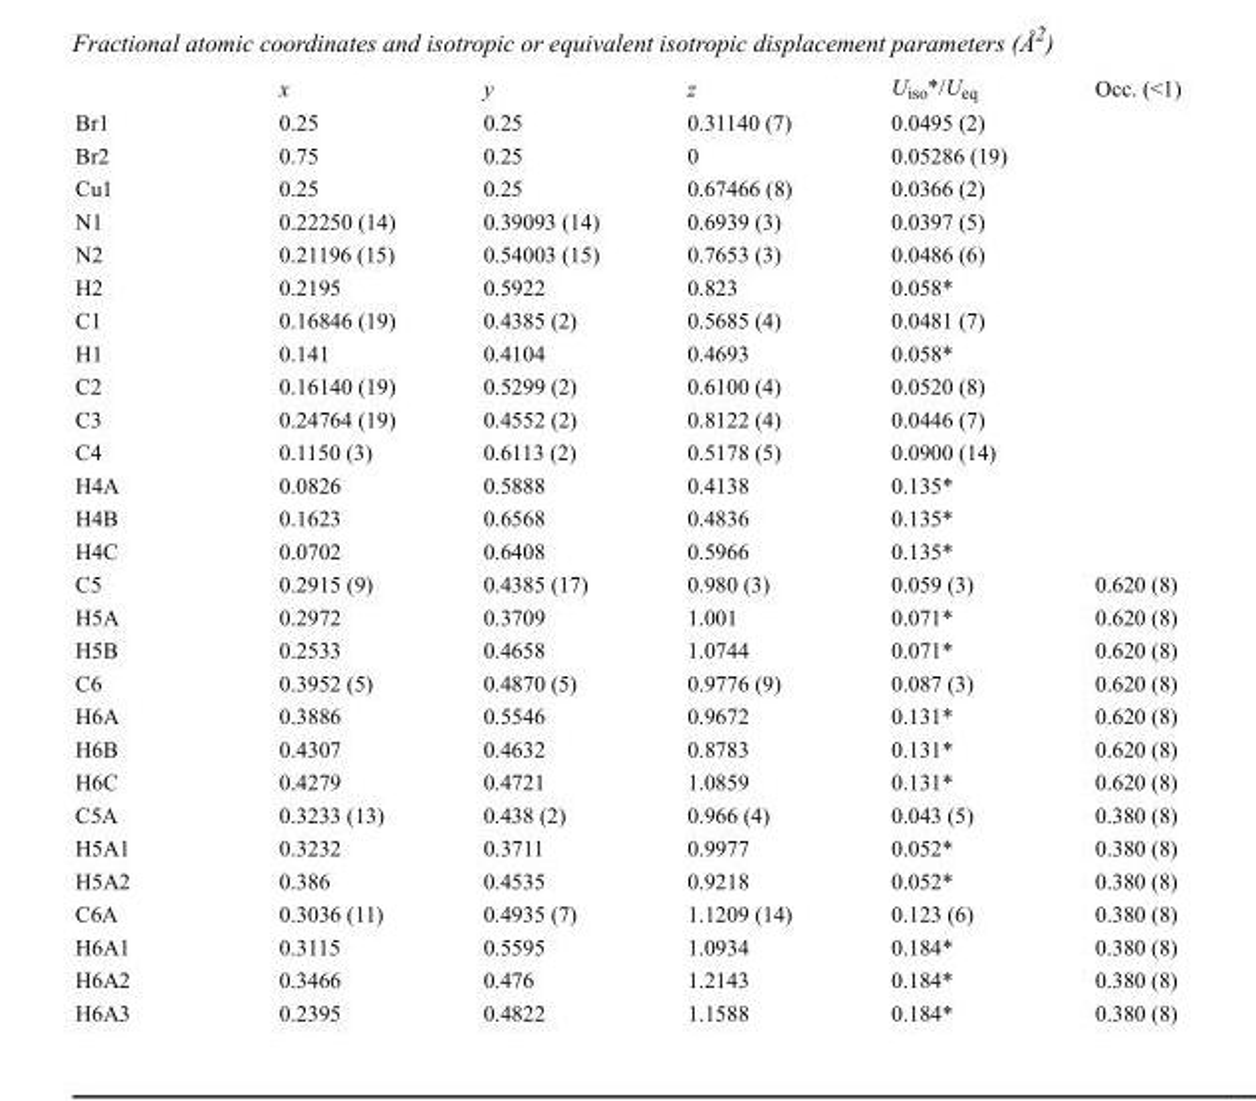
<table><thead><tr><td></td><td>x</td><td>y</td><td>z</td><td>U<sub>iso</sub>*/U<sub>eq</sub></td><td>Occ. (&lt;1)</td></tr></thead><tbody><tr><td>Br1</td><td>0.25</td><td>0.25</td><td>0.31140 (7)</td><td>0.0495 (2)</td><td></td></tr><tr><td>Br2</td><td>0.75</td><td>0.25</td><td>0</td><td>0.05286 (19)</td><td></td></tr><tr><td>Cu1</td><td>0.25</td><td>0.25</td><td>0.67466 (8)</td><td>0.0366 (2)</td><td></td></tr><tr><td>N1</td><td>0.22250 (14)</td><td>0.39093 (14)</td><td>0.6939 (3)</td><td>0.0397 (5)</td><td></td></tr><tr><td>N2</td><td>0.21196 (15)</td><td>0.54003 (15)</td><td>0.7653 (3)</td><td>0.0486 (6)</td><td></td></tr><tr><td>H2</td><td>0.2195</td><td>0.5922</td><td>0.823</td><td>0.058*</td><td></td></tr><tr><td>C1</td><td>0.16846 (19)</td><td>0.4385 (2)</td><td>0.5685 (4)</td><td>0.0481 (7)</td><td></td></tr><tr><td>H1</td><td>0.141</td><td>0.4104</td><td>0.4693</td><td>0.058*</td><td></td></tr><tr><td>C2</td><td>0.16140 (19)</td><td>0.5299 (2)</td><td>0.6100 (4)</td><td>0.0520 (8)</td><td></td></tr><tr><td>C3</td><td>0.24764 (19)</td><td>0.4552 (2)</td><td>0.8122 (4)</td><td>0.0446 (7)</td><td></td></tr><tr><td>C4</td><td>0.1150 (3)</td><td>0.6113 (2)</td><td>0.5178 (5)</td><td>0.0900 (14)</td><td></td></tr><tr><td>H4A</td><td>0.0826</td><td>0.5888</td><td>0.4138</td><td>0.135*</td><td></td></tr><tr><td>H4B</td><td>0.1623</td><td>0.6568</td><td>0.4836</td><td>0.135*</td><td></td></tr><tr><td>H4C</td><td>0.0702</td><td>0.6408</td><td>0.5966</td><td>0.135*</td><td></td></tr><tr><td>C5</td><td>0.2915 (9)</td><td>0.4385 (17)</td><td>0.980 (3)</td><td>0.059 (3)</td><td>0.620 (8)</td></tr><tr><td>H5A</td><td>0.2972</td><td>0.3709</td><td>1.001</td><td>0.071*</td><td>0.620 (8)</td></tr><tr><td>H5B</td><td>0.2533</td><td>0.4658</td><td>1.0744</td><td>0.071*</td><td>0.620 (8)</td></tr><tr><td>C6</td><td>0.3952 (5)</td><td>0.4870 (5)</td><td>0.9776 (9)</td><td>0.087 (3)</td><td>0.620 (8)</td></tr><tr><td>H6A</td><td>0.3886</td><td>0.5546</td><td>0.9672</td><td>0.131*</td><td>0.620 (8)</td></tr><tr><td>H6B</td><td>0.4307</td><td>0.4632</td><td>0.8783</td><td>0.131*</td><td>0.620 (8)</td></tr><tr><td>H6C</td><td>0.4279</td><td>0.4721</td><td>1.0859</td><td>0.131*</td><td>0.620 (8)</td></tr><tr><td>C5A</td><td>0.3233 (13)</td><td>0.438 (2)</td><td>0.966 (4)</td><td>0.043 (5)</td><td>0.380 (8)</td></tr><tr><td>H5A1</td><td>0.3232</td><td>0.3711</td><td>0.9977</td><td>0.052*</td><td>0.380 (8)</td></tr><tr><td>H5A2</td><td>0.386</td><td>0.4535</td><td>0.9218</td><td>0.052*</td><td>0.380 (8)</td></tr><tr><td>C6A</td><td>0.3036 (11)</td><td>0.4935 (7)</td><td>1.1209 (14)</td><td>0.123 (6)</td><td>0.380 (8)</td></tr><tr><td>H6A1</td><td>0.3115</td><td>0.5595</td><td>1.0934</td><td>0.184*</td><td>0.380 (8)</td></tr><tr><td>H6A2</td><td>0.3466</td><td>0.476</td><td>1.2143</td><td>0.184*</td><td>0.380 (8)</td></tr><tr><td>H6A3</td><td>0.2395</td><td>0.4822</td><td>1.1588</td><td>0.184*</td><td>0.380 (8)</td></tr></tbody></table>